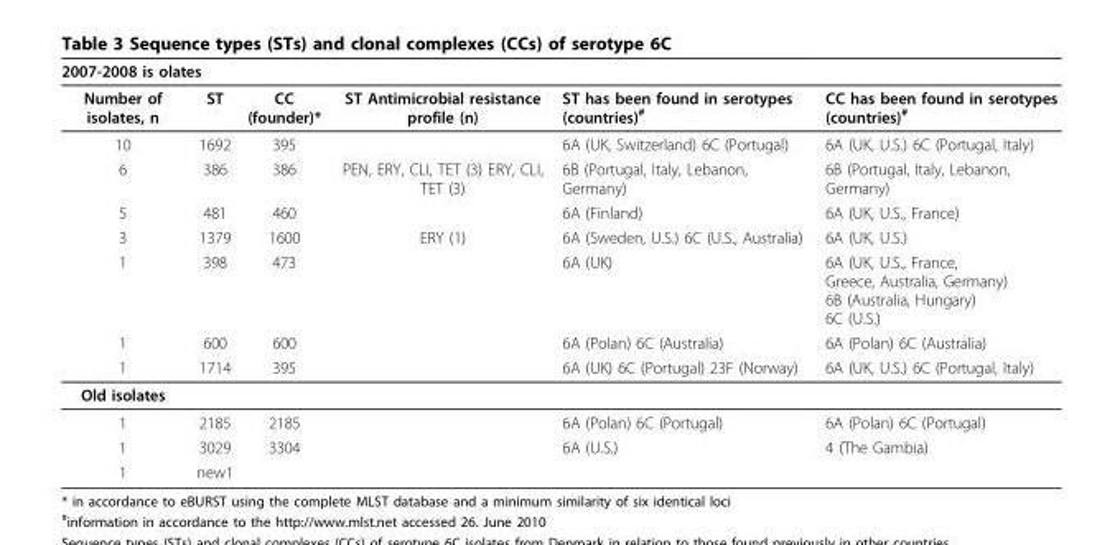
<table><thead><tr><td colspan="6">2007-2008 is olates</td></tr><tr><td>Number of isolates, n</td><td>ST</td><td>CC (founder)*</td><td>ST Antimicrobial resistance profile (n)</td><td>ST has been found in serotypes (countries)<sup>#</sup></td><td>CC has been found in serotypes (countries)<sup>#</sup></td></tr></thead><tbody><tr><td>10</td><td>1692</td><td>395</td><td></td><td>6A (UK, Switzerland) 6C (Portugal)</td><td>6A (UK, U.S.) 6C (Portugal, Italy)</td></tr><tr><td>6</td><td>386</td><td>386</td><td>PEN, ERY, CLI, TET (3) ERY, CLI, TET (3)</td><td>6B (Portugal, Italy, Lebanon, Germany)</td><td>6B (Portugal, Italy, Lebanon, Germany)</td></tr><tr><td>5</td><td>481</td><td>460</td><td></td><td>6A (Finland)</td><td>6A (UK, U.S., France)</td></tr><tr><td>3</td><td>1379</td><td>1600</td><td>ERY (1)</td><td>6A (Sweden, U.S.) 6C (U.S., Australia)</td><td>6A (UK, U.S.)</td></tr><tr><td>1</td><td>398</td><td>473</td><td></td><td>6A (UK)</td><td>6A (UK, U.S., France, Greece, Australia, Germany) 6B (Australia, Hungary) 6C (U.S.)</td></tr><tr><td>1</td><td>600</td><td>600</td><td></td><td>6A (Polan) 6C (Australia)</td><td>6A (Polan) 6C (Australia)</td></tr><tr><td>1</td><td>1714</td><td>395</td><td></td><td>6A (UK) 6C (Portugal) 23F (Norway)</td><td>6A (UK, U.S.) 6C (Portugal, Italy)</td></tr><tr><td colspan="6">Old isolates</td></tr><tr><td>1</td><td>2185</td><td>2185</td><td></td><td>6A (Polan) 6C (Portugal)</td><td>6A (Polan) 6C (Portugal)</td></tr><tr><td>1</td><td>3029</td><td>3304</td><td></td><td>6A (U.S.)</td><td>4 (The Gambia)</td></tr><tr><td>1</td><td>new1</td><td></td><td></td><td></td><td></td></tr></tbody></table>